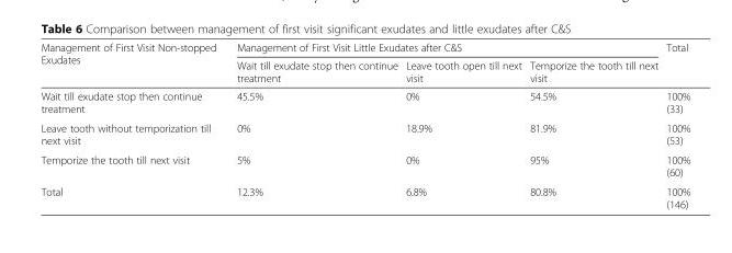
<table><thead><tr><td rowspan="2">Management of First Visit Non-stopped Exudates</td><td colspan="3">Management of First Visit Little Exudates after C&amp;S</td><td rowspan="2">Total</td></tr><tr><td>Wait till exudate stop then continue treatment</td><td>Leave tooth open till next visit</td><td>Temporize the tooth till next visit</td></tr></thead><tbody><tr><td>Wait till exudate stop then continue treatment</td><td>45.5%</td><td>0%</td><td>54.5%</td><td>100% (33)</td></tr><tr><td>Leave tooth without temporization till next visit</td><td>0%</td><td>18.9%</td><td>81.9%</td><td>100% (53)</td></tr><tr><td>Temporize the tooth till next visit</td><td>5%</td><td>0%</td><td>95%</td><td>100% (60)</td></tr><tr><td>Total</td><td>12.3%</td><td>6.8%</td><td>80.8%</td><td>100% (146)</td></tr></tbody></table>